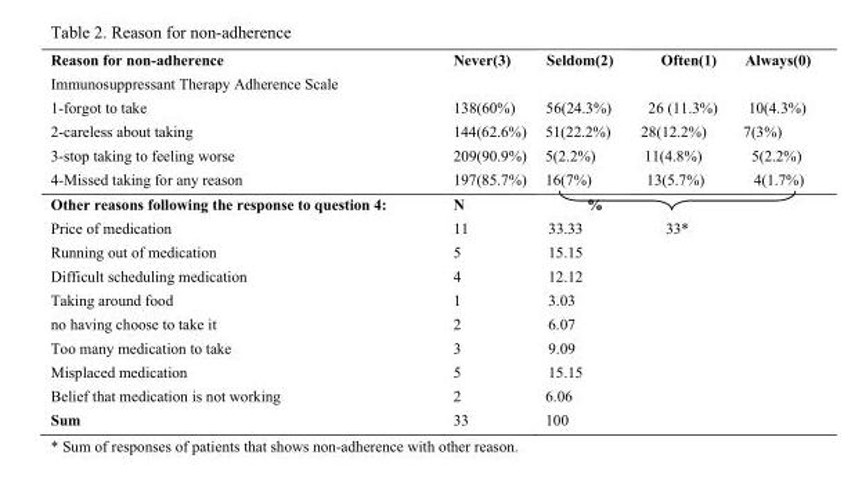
<table><tbody><tr><td>Reason for non-adherence</td><td>Never(3)</td><td>Seldom(2)</td><td>Often(1)</td><td>Always(0)</td></tr><tr><td colspan="5">Immunosuppressant Therapy Adherence Scale</td></tr><tr><td>1-forgot to take</td><td>138(60%)</td><td>56(24.3%)</td><td>26 (11.3%)</td><td>10(4.3%)</td></tr><tr><td>2-careless about taking</td><td>144(62.6%)</td><td>51(22.2%)</td><td>28(12.2%)</td><td>7(3%)</td></tr><tr><td>3-stop taking to feeling worse</td><td>209(90.9%)</td><td>5(2.2%)</td><td>11(4.8%)</td><td>5(2.2%)</td></tr><tr><td>4-Missed taking for any reason</td><td>197(85.7%)</td><td>16(7%)</td><td>13(5.7%)</td><td>4(1.7%)</td></tr><tr><td>Other reasons following the response to question 4:</td><td>N</td><td>%</td><td></td><td></td></tr><tr><td>Price of medication</td><td>11</td><td>33.33</td><td>33*</td><td></td></tr><tr><td>Running out of medication</td><td>5</td><td>15.15</td><td></td><td></td></tr><tr><td>Difficult scheduling medication</td><td>4</td><td>12.12</td><td></td><td></td></tr><tr><td>Taking around food</td><td>1</td><td>3.03</td><td></td><td></td></tr><tr><td>no having choose to take it</td><td>2</td><td>6.07</td><td></td><td></td></tr><tr><td>Too many medication to take</td><td>3</td><td>9.09</td><td></td><td></td></tr><tr><td>Misplaced medication</td><td>5</td><td>15.15</td><td></td><td></td></tr><tr><td>Belief that medication is not working</td><td>2</td><td>6.06</td><td></td><td></td></tr><tr><td>Sum</td><td>33</td><td>100</td><td></td><td></td></tr></tbody></table>